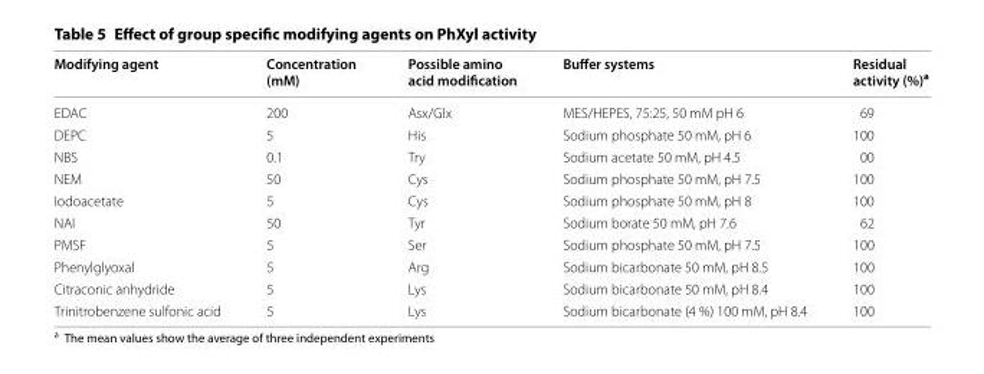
<table><thead><tr><td>Modifying agent</td><td>Concentration (mM)</td><td>Possible amino acid modification</td><td>Buffer systems</td><td>Residual activity (%)<sup>a</sup></td></tr></thead><tbody><tr><td>EDAC</td><td>200</td><td>Asx/Glx</td><td>MES/HEPES, 75:25, 50 mM pH 6</td><td>69</td></tr><tr><td>DEPC</td><td>5</td><td>His</td><td>Sodium phosphate 50 mM, pH 6</td><td>100</td></tr><tr><td>NBS</td><td>0.1</td><td>Try</td><td>Sodium acetate 50 mM, pH 4.5</td><td>00</td></tr><tr><td>NEM</td><td>50</td><td>Cys</td><td>Sodium phosphate 50 mM, pH 7.5</td><td>100</td></tr><tr><td>Iodoacetate</td><td>5</td><td>Cys</td><td>Sodium phosphate 50 mM, pH 8</td><td>100</td></tr><tr><td>NAI</td><td>50</td><td>Tyr</td><td>Sodium borate 50 mM, pH 7.6</td><td>62</td></tr><tr><td>PMSF</td><td>5</td><td>Ser</td><td>Sodium phosphate 50 mM, pH 7.5</td><td>100</td></tr><tr><td>Phenylglyoxal</td><td>5</td><td>Arg</td><td>Sodium bicarbonate 50 mM, pH 8.5</td><td>100</td></tr><tr><td>Citraconic anhydride</td><td>5</td><td>Lys</td><td>Sodium bicarbonate 50 mM, pH 8.4</td><td>100</td></tr><tr><td>Trinitrobenzene sulfonic acid</td><td>5</td><td>Lys</td><td>Sodium bicarbonate (4 %) 100 mM, pH 8.4</td><td>100</td></tr></tbody></table>